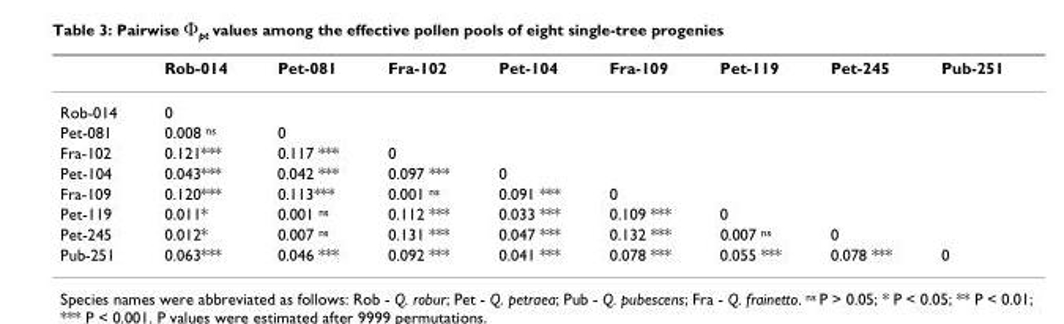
<table><thead><tr><td></td><td>Rob-014</td><td>Pet-081</td><td>Fra-102</td><td>Pet-104</td><td>Fra-109</td><td>Pet-119</td><td>Pet-245</td><td>Pub-251</td></tr></thead><tbody><tr><td>Rob-014</td><td>0</td><td></td><td></td><td></td><td></td><td></td><td></td><td></td></tr><tr><td>Pet-081</td><td>0.008 <sup>ns</sup></td><td>0</td><td></td><td></td><td></td><td></td><td></td><td></td></tr><tr><td>Fra-102</td><td>0.121***</td><td>0.117 ***</td><td>0</td><td></td><td></td><td></td><td></td><td></td></tr><tr><td>Pet-104</td><td>0.043***</td><td>0.042 ***</td><td>0.097 ***</td><td>0</td><td></td><td></td><td></td><td></td></tr><tr><td>Fra-109</td><td>0.120***</td><td>0.113***</td><td>0.001 <sup>ns</sup></td><td>0.091 ***</td><td>0</td><td></td><td></td><td></td></tr><tr><td>Pet-119</td><td>0.011*</td><td>0.001 <sup>ns</sup></td><td>0.112 ***</td><td>0.033 ***</td><td>0.109 ***</td><td>0</td><td></td><td></td></tr><tr><td>Pet-245</td><td>0.012*</td><td>0.007 <sup>ns</sup></td><td>0.131 ***</td><td>0.047 ***</td><td>0.132 ***</td><td>0.007 <sup>ns</sup></td><td>0</td><td></td></tr><tr><td>Pub-251</td><td>0.063***</td><td>0.046 ***</td><td>0.092 ***</td><td>0.041 ***</td><td>0.078 ***</td><td>0.055 ***</td><td>0.078 ***</td><td>0</td></tr></tbody></table>